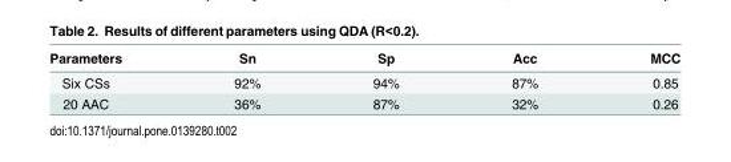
<table><thead><tr><td>Parameters</td><td>Sn</td><td>Sp</td><td>Acc</td><td>MCC</td></tr></thead><tbody><tr><td>Six CSs</td><td>92%</td><td>94%</td><td>87%</td><td>0.85</td></tr><tr><td>20 AAC</td><td>36%</td><td>87%</td><td>32%</td><td>0.26</td></tr></tbody></table>